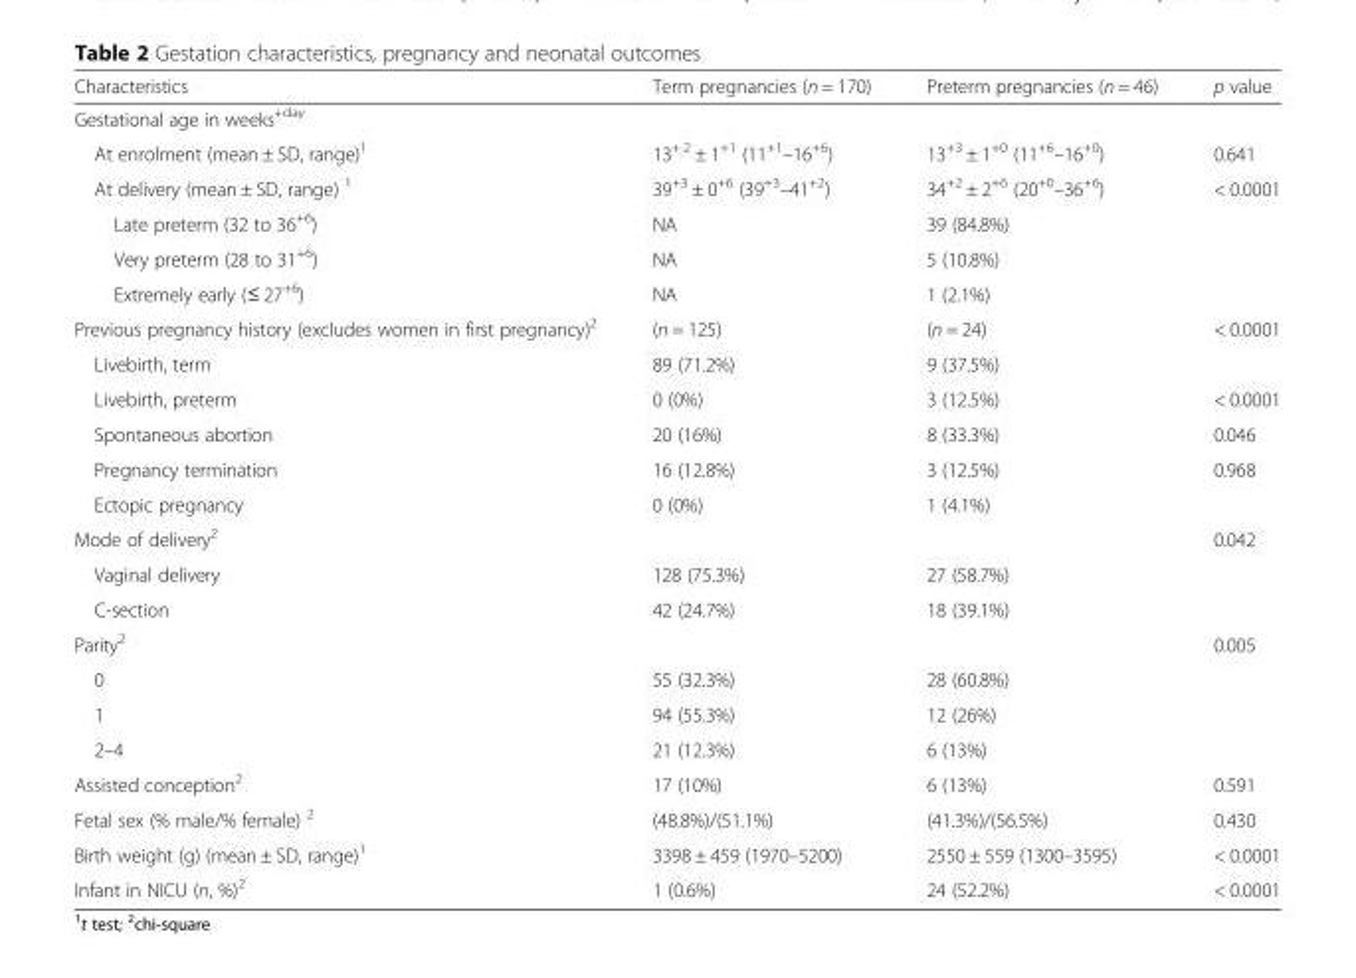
<table><thead><tr><td>Characteristics</td><td>Term pregnancies (n = 170)</td><td>Preterm pregnancies (n = 46)</td><td>p value</td></tr></thead><tbody><tr><td colspan="4">Gestational age in weeks<sup>+day</sup></td></tr><tr><td>At enrolment (mean ± SD, range)<sup>1</sup></td><td>13<sup>+ 2</sup> ± 1<sup>+1</sup> (11<sup>+1</sup>–16<sup>+6</sup>)</td><td>13<sup>+3</sup> ± 1<sup>+0</sup> (11<sup>+6</sup>–16<sup>+0</sup>)</td><td>0.641</td></tr><tr><td>At delivery (mean ± SD, range) <sup>1</sup></td><td>39<sup>+3</sup> ± 0<sup>+6</sup> (39<sup>+3</sup>–41<sup>+2</sup>)</td><td>34<sup>+2</sup> ± 2<sup>+6</sup> (20<sup>+0</sup>–36<sup>+6</sup>)</td><td>&lt; 0.0001</td></tr><tr><td>Late preterm (32 to 36<sup>+6</sup>)</td><td>NA</td><td>39 (84.8%)</td><td rowspan="3"></td></tr><tr><td>Very preterm (28 to 31<sup>+6</sup>)</td><td>NA</td><td>5 (10.8%)</td></tr><tr><td>Extremely early (≤ 27<sup>+6</sup>)</td><td>NA</td><td>1 (2.1%)</td></tr><tr><td>Previous pregnancy history (excludes women in first pregnancy)<sup>2</sup></td><td>(n = 125)</td><td>(n = 24)</td><td>&lt; 0.0001</td></tr><tr><td>Livebirth, term</td><td>89 (71.2%)</td><td>9 (37.5%)</td><td></td></tr><tr><td>Livebirth, preterm</td><td>0 (0%)</td><td>3 (12.5%)</td><td>&lt; 0.0001</td></tr><tr><td>Spontaneous abortion</td><td>20 (16%)</td><td>8 (33.3%)</td><td>0.046</td></tr><tr><td>Pregnancy termination</td><td>16 (12.8%)</td><td>3 (12.5%)</td><td>0.968</td></tr><tr><td>Ectopic pregnancy</td><td>0 (0%)</td><td>1 (4.1%)</td><td></td></tr><tr><td colspan="3">Mode of delivery<sup>2</sup></td><td>0.042</td></tr><tr><td>Vaginal delivery</td><td>128 (75.3%)</td><td>27 (58.7%)</td><td rowspan="2"></td></tr><tr><td>C-section</td><td>42 (24.7%)</td><td>18 (39.1%)</td></tr><tr><td colspan="3">Parity<sup>2</sup></td><td>0.005</td></tr><tr><td>0</td><td>55 (32.3%)</td><td>28 (60.8%)</td><td rowspan="3"></td></tr><tr><td>1</td><td>94 (55.3%)</td><td>12 (26%)</td></tr><tr><td>2–4</td><td>21 (12.3%)</td><td>6 (13%)</td></tr><tr><td>Assisted conception<sup>2</sup></td><td>17 (10%)</td><td>6 (13%)</td><td>0.591</td></tr><tr><td>Fetal sex (% male/% female) <sup>2</sup></td><td>(48.8%)/(51.1%)</td><td>(41.3%)/(56.5%)</td><td>0.430</td></tr><tr><td>Birth weight (g) (mean ± SD, range)<sup>1</sup></td><td>3398 ± 459 (1970–5200)</td><td>2550 ± 559 (1300–3595)</td><td>&lt; 0.0001</td></tr><tr><td>Infant in NICU (n, %)<sup>2</sup></td><td>1 (0.6%)</td><td>24 (52.2%)</td><td>&lt; 0.0001</td></tr></tbody></table>